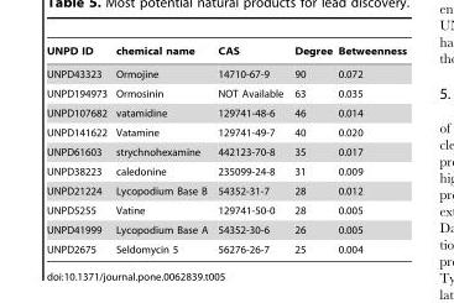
<table><thead><tr><td>UNPD ID</td><td>chemical name</td><td>CAS</td><td>Degree</td><td>Betweenness</td></tr></thead><tbody><tr><td>UNPD43323</td><td>Ormojine</td><td>14710-67-9</td><td>90</td><td>0.072</td></tr><tr><td>UNPD194973</td><td>Ormosinin</td><td>NOT Available</td><td>63</td><td>0.035</td></tr><tr><td>UNPD107682</td><td>vatamidine</td><td>129741-48-6</td><td>46</td><td>0.014</td></tr><tr><td>UNPD141622</td><td>Vatamine</td><td>129741-49-7</td><td>40</td><td>0.020</td></tr><tr><td>UNPD61603</td><td>strychnohexamine</td><td>442123-70-8</td><td>35</td><td>0.017</td></tr><tr><td>UNPD38223</td><td>caledonine</td><td>235099-24-8</td><td>31</td><td>0.009</td></tr><tr><td>UNPD21224</td><td>Lycopodium Base B</td><td>54352-31-7</td><td>28</td><td>0.012</td></tr><tr><td>UNPD5255</td><td>Vatine</td><td>129741-50-0</td><td>28</td><td>0.005</td></tr><tr><td>UNPD41999</td><td>Lycopodium Base A</td><td>54352-30-6</td><td>26</td><td>0.005</td></tr><tr><td>UNPD2675</td><td>Seldomycin 5</td><td>56276-26-7</td><td>25</td><td>0.004</td></tr></tbody></table>